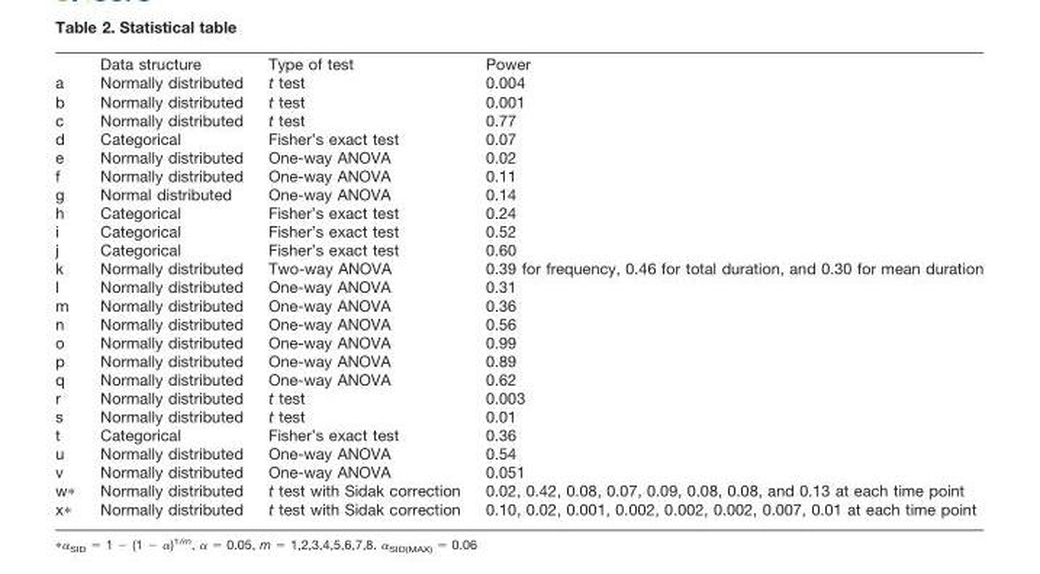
<table><thead><tr><td></td><td>Data structure</td><td>Type of test</td><td>Power</td></tr></thead><tbody><tr><td>a</td><td>Normally distributed</td><td>t test</td><td>0.004</td></tr><tr><td>b</td><td>Normally distributed</td><td>t test</td><td>0.001</td></tr><tr><td>c</td><td>Normally distributed</td><td>t test</td><td>0.77</td></tr><tr><td>d</td><td>Categorical</td><td>Fisher’s exact test</td><td>0.07</td></tr><tr><td>e</td><td>Normally distributed</td><td>One-way ANOVA</td><td>0.02</td></tr><tr><td>f</td><td>Normally distributed</td><td>One-way ANOVA</td><td>0.11</td></tr><tr><td>g</td><td>Normal distributed</td><td>One-way ANOVA</td><td>0.14</td></tr><tr><td>h</td><td>Categorical</td><td>Fisher’s exact test</td><td>0.24</td></tr><tr><td>i</td><td>Categorical</td><td>Fisher’s exact test</td><td>0.52</td></tr><tr><td>j</td><td>Categorical</td><td>Fisher’s exact test</td><td>0.60</td></tr><tr><td>k</td><td>Normally distributed</td><td>Two-way ANOVA</td><td>0.39 for frequency, 0.46 for total duration, and 0.30 for mean duration</td></tr><tr><td>l</td><td>Normally distributed</td><td>One-way ANOVA</td><td>0.31</td></tr><tr><td>m</td><td>Normally distributed</td><td>One-way ANOVA</td><td>0.36</td></tr><tr><td>n</td><td>Normally distributed</td><td>One-way ANOVA</td><td>0.56</td></tr><tr><td>o</td><td>Normally distributed</td><td>One-way ANOVA</td><td>0.99</td></tr><tr><td>p</td><td>Normally distributed</td><td>One-way ANOVA</td><td>0.89</td></tr><tr><td>q</td><td>Normally distributed</td><td>One-way ANOVA</td><td>0.62</td></tr><tr><td>r</td><td>Normally distributed</td><td>t test</td><td>0.003</td></tr><tr><td>s</td><td>Normally distributed</td><td>t test</td><td>0.01</td></tr><tr><td>t</td><td>Categorical</td><td>Fisher’s exact test</td><td>0.36</td></tr><tr><td>u</td><td>Normally distributed</td><td>One-way ANOVA</td><td>0.54</td></tr><tr><td>v</td><td>Normally distributed</td><td>One-way ANOVA</td><td>0.051</td></tr><tr><td>w*</td><td>Normally distributed</td><td>t test with Sidak correction</td><td>0.02, 0.42, 0.08, 0.07, 0.09, 0.08, 0.08, and 0.13 at each time point</td></tr><tr><td>x*</td><td>Normally distributed</td><td>t test with Sidak correction</td><td>0.10, 0.02, 0.001, 0.002, 0.002, 0.002, 0.007, 0.01 at each time point</td></tr></tbody></table>